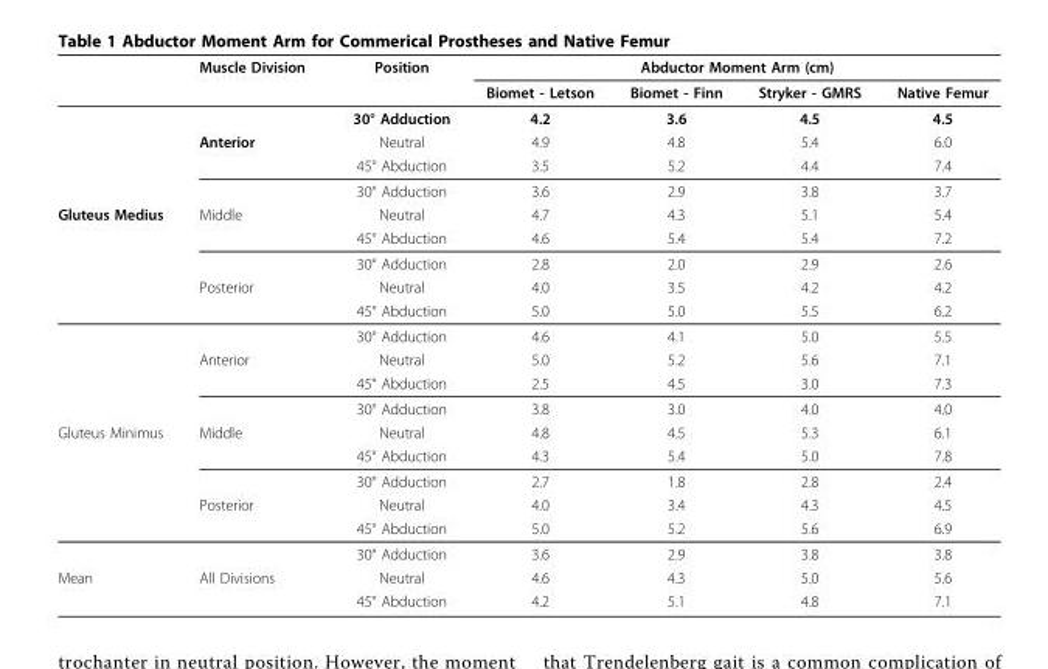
<table><thead><tr><td rowspan="2"></td><td rowspan="2">Muscle Division</td><td rowspan="2">Position</td><td colspan="4">Abductor Moment Arm (cm)</td></tr><tr><td>Biomet - Letson</td><td>Biomet - Finn</td><td>Stryker - GMRS</td><td>Native Femur</td></tr></thead><tbody><tr><td></td><td></td><td>30° Adduction</td><td>4.2</td><td>3.6</td><td>4.5</td><td>4.5</td></tr><tr><td></td><td>Anterior</td><td>Neutral</td><td>4.9</td><td>4.8</td><td>5.4</td><td>6.0</td></tr><tr><td></td><td></td><td>45° Abduction</td><td>3.5</td><td>5.2</td><td>4.4</td><td>7.4</td></tr><tr><td></td><td></td><td>30° Adduction</td><td>3.6</td><td>2.9</td><td>3.8</td><td>3.7</td></tr><tr><td rowspan="9">Gluteus Medius</td><td>Middle</td><td>Neutral</td><td>4.7</td><td>4.3</td><td>5.1</td><td>5.4</td></tr><tr><td></td><td>45° Abduction</td><td>4.6</td><td>5.4</td><td>5.4</td><td>7.2</td></tr><tr><td></td><td>30° Adduction</td><td>2.8</td><td>2.0</td><td>2.9</td><td>2.6</td></tr><tr><td>Posterior</td><td>Neutral</td><td>4.0</td><td>3.5</td><td>4.2</td><td>4.2</td></tr><tr><td></td><td>45° Abduction</td><td>5.0</td><td>5.0</td><td>5.5</td><td>6.2</td></tr><tr><td></td><td>30° Adduction</td><td>4.6</td><td>4.1</td><td>5.0</td><td>5.5</td></tr><tr><td>Anterior</td><td>Neutral</td><td>5.0</td><td>5.2</td><td>5.6</td><td>7.1</td></tr><tr><td></td><td>45° Abduction</td><td>2.5</td><td>4.5</td><td>3.0</td><td>7.3</td></tr><tr><td></td><td>30° Adduction</td><td>3.8</td><td>3.0</td><td>4.0</td><td>4.0</td></tr><tr><td rowspan="6">Gluteus Minimus</td><td>Middle</td><td>Neutral</td><td>4.8</td><td>4.5</td><td>5.3</td><td>6.1</td></tr><tr><td></td><td>45° Abduction</td><td>4.3</td><td>5.4</td><td>5.0</td><td>7.8</td></tr><tr><td></td><td>30° Adduction</td><td>2.7</td><td>1.8</td><td>2.8</td><td>2.4</td></tr><tr><td>Posterior</td><td>Neutral</td><td>4.0</td><td>3.4</td><td>4.3</td><td>4.5</td></tr><tr><td></td><td>45° Abduction</td><td>5.0</td><td>5.2</td><td>5.6</td><td>6.9</td></tr><tr><td></td><td>30° Adduction</td><td>3.6</td><td>2.9</td><td>3.8</td><td>3.8</td></tr><tr><td rowspan="2">Mean</td><td>All Divisions</td><td>Neutral</td><td>4.6</td><td>4.3</td><td>5.0</td><td>5.6</td></tr><tr><td></td><td>45° Abduction</td><td>4.2</td><td>5.1</td><td>4.8</td><td>7.1</td></tr></tbody></table>